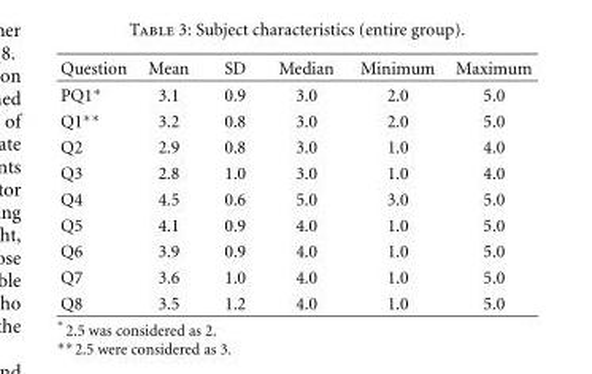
<table><thead><tr><td>Question</td><td>Mean</td><td>SD</td><td>Median</td><td>Minimum</td><td>Maximum</td></tr></thead><tbody><tr><td>PQ1∗</td><td>3.1</td><td>0.9</td><td>3.0</td><td>2.0</td><td>5.0</td></tr><tr><td>Q1∗∗</td><td>3.2</td><td>0.8</td><td>3.0</td><td>2.0</td><td>5.0</td></tr><tr><td>Q2</td><td>2.9</td><td>0.8</td><td>3.0</td><td>1.0</td><td>4.0</td></tr><tr><td>Q3</td><td>2.8</td><td>1.0</td><td>3.0</td><td>1.0</td><td>4.0</td></tr><tr><td>Q4</td><td>4.5</td><td>0.6</td><td>5.0</td><td>3.0</td><td>5.0</td></tr><tr><td>Q5</td><td>4.1</td><td>0.9</td><td>4.0</td><td>1.0</td><td>5.0</td></tr><tr><td>Q6</td><td>3.9</td><td>0.9</td><td>4.0</td><td>1.0</td><td>5.0</td></tr><tr><td>Q7</td><td>3.6</td><td>1.0</td><td>4.0</td><td>1.0</td><td>5.0</td></tr><tr><td>Q8</td><td>3.5</td><td>1.2</td><td>4.0</td><td>1.0</td><td>5.0</td></tr></tbody></table>